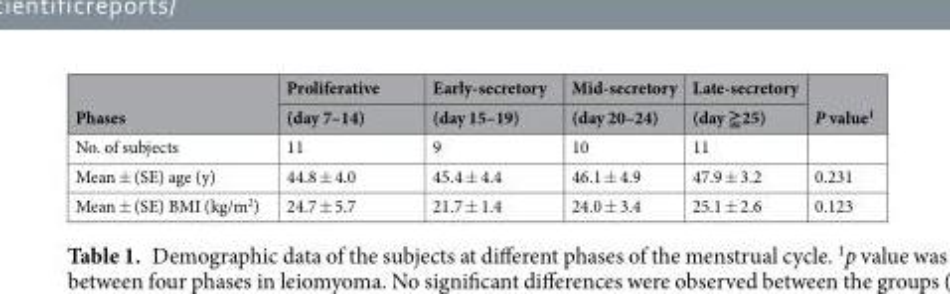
<table><thead><tr><td rowspan="2">Phases</td><td rowspan="2">Proliferative (day 7–14)</td><td rowspan="2">Early-secretory (day 15–19)</td><td rowspan="2">Mid-secretory (day 20–24)</td><td rowspan="2">Late-secretory (day ≧25)</td><td rowspan="2">P value<sup>1</sup></td></tr><tr></tr></thead><tbody><tr><td>No. of subjects</td><td>11</td><td>9</td><td>10</td><td>11</td><td></td></tr><tr><td>Mean ± (SE) age (y)</td><td>44.8 ± 4.0</td><td>45.4 ± 4.4</td><td>46.1 ± 4.9</td><td>47.9 ± 3.2</td><td>0.231</td></tr><tr><td>Mean ± (SE) BMI (kg/m<sup>2</sup>)</td><td>24.7 ± 5.7</td><td>21.7 ± 1.4</td><td>24.0 ± 3.4</td><td>25.1 ± 2.6</td><td>0.123</td></tr></tbody></table>